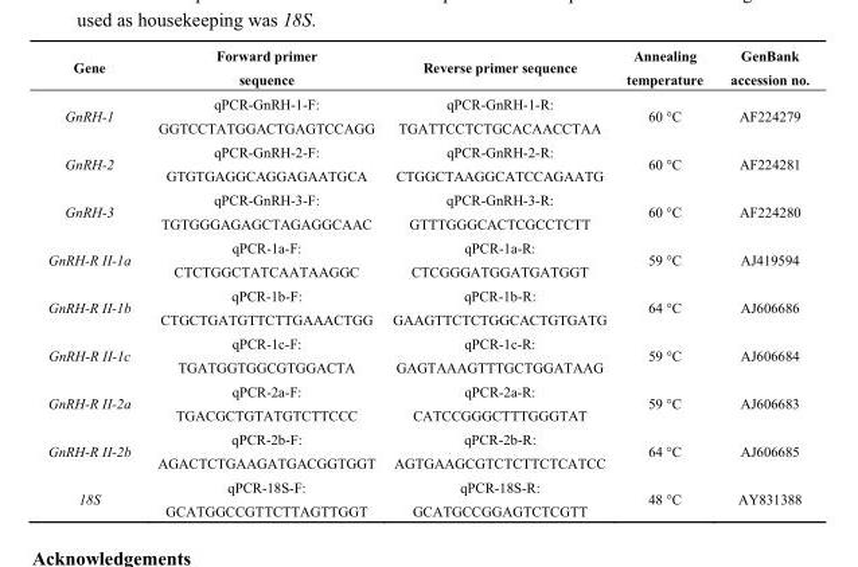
<table><thead><tr><td>Gene</td><td>Forward primer sequence</td><td>Reverse primer sequence</td><td>Annealing temperature</td><td>GenBank accession no.</td></tr></thead><tbody><tr><td>GnRH-1</td><td>qPCR-GnRH-1-F: GGTCCTATGGACTGAGTCCAGG</td><td>qPCR-GnRH-1-R: TGATTCCTCTGCACAACCTAA</td><td>60 °C</td><td>AF224279</td></tr><tr><td>GnRH-2</td><td>qPCR-GnRH-2-F: GTGTGAGGCAGGAGAATGCA</td><td>qPCR-GnRH-2-R: CTGGCTAAGGCATCCAGAATG</td><td>60 °C</td><td>AF224281</td></tr><tr><td>GnRH-3</td><td>qPCR-GnRH-3-F: TGTGGGAGAGCTAGAGGCAAC</td><td>qPCR-GnRH-3-R: GTTTGGGCACTCGCCTCTT</td><td>60 °C</td><td>AF224280</td></tr><tr><td>GnRH-R II-1a</td><td>qPCR-1a-F: CTCTGGCTATCAATAAGGC</td><td>qPCR-1a-R: CTCGGGATGGATGATGGT</td><td>59 °C</td><td>AJ419594</td></tr><tr><td>GnRH-R II-1b</td><td>qPCR-1b-F: CTGCTGATGTTCTTGAAACTGG</td><td>qPCR-1b-R: GAAGTTCTCTGGCACTGTGATG</td><td>64 °C</td><td>AJ606686</td></tr><tr><td>GnRH-R II-1c</td><td>qPCR-1c-F: TGATGGTGGCGTGGACTA</td><td>qPCR-1c-R: GAGTAAAGTTTGCTGGATAAG</td><td>59 °C</td><td>AJ606684</td></tr><tr><td>GnRH-R II-2a</td><td>qPCR-2a-F: TGACGCTGTATGTCTTCCC</td><td>qPCR-2a-R: CATCCGGGCTTTGGGTAT</td><td>59 °C</td><td>AJ606683</td></tr><tr><td>GnRH-R II-2b</td><td>qPCR-2b-F: AGACTCTGAAGATGACGGTGGT</td><td>qPCR-2b-R: AGTGAAGCGTCTCTTCTCATCC</td><td>64 °C</td><td>AJ606685</td></tr><tr><td>18S</td><td>qPCR-18S-F: GCATGGCCGTTCTTAGTTGGT</td><td>qPCR-18S-R: GCATGCCGGAGTCTCGTT</td><td>48 °C</td><td>AY831388</td></tr></tbody></table>